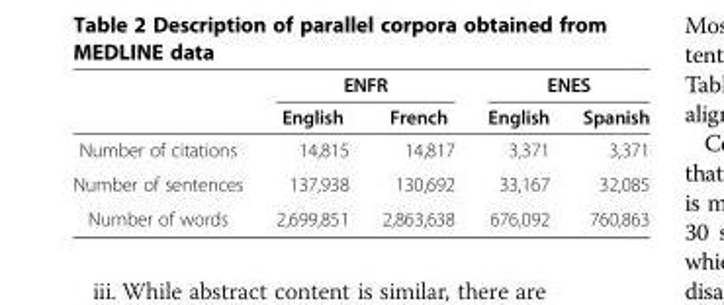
<table><thead><tr><td rowspan="2"></td><td colspan="2">ENFR</td><td colspan="2">ENES</td></tr><tr><td>English</td><td>French</td><td>English</td><td>Spanish</td></tr></thead><tbody><tr><td>Number of citations</td><td>14,815</td><td>14,817</td><td>3,371</td><td>3,371</td></tr><tr><td>Number of sentences</td><td>137,938</td><td>130,692</td><td>33,167</td><td>32,085</td></tr><tr><td>Number of words</td><td>2,699,851</td><td>2,863,638</td><td>676,092</td><td>760,863</td></tr></tbody></table>